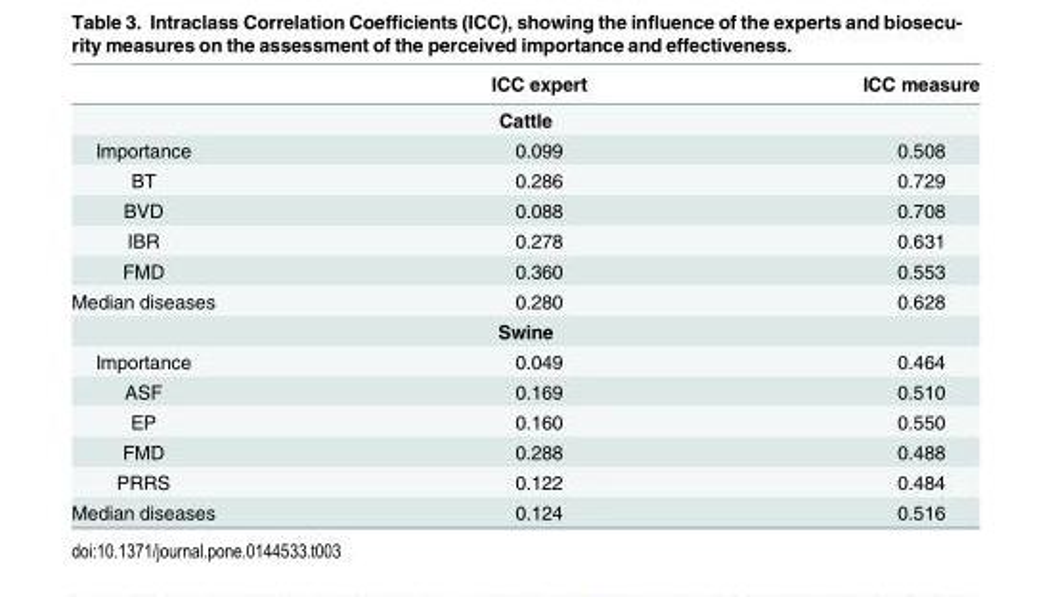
<table><thead><tr><td></td><td>ICC expert</td><td>ICC measure</td></tr></thead><tbody><tr><td colspan="3">Cattle</td></tr><tr><td>Importance</td><td>0.099</td><td>0.508</td></tr><tr><td>BT</td><td>0.286</td><td>0.729</td></tr><tr><td>BVD</td><td>0.088</td><td>0.708</td></tr><tr><td>IBR</td><td>0.278</td><td>0.631</td></tr><tr><td>FMD</td><td>0.360</td><td>0.553</td></tr><tr><td>Median diseases</td><td>0.280</td><td>0.628</td></tr><tr><td colspan="3">Swine</td></tr><tr><td>Importance</td><td>0.049</td><td>0.464</td></tr><tr><td>ASF</td><td>0.169</td><td>0.510</td></tr><tr><td>EP</td><td>0.160</td><td>0.550</td></tr><tr><td>FMD</td><td>0.288</td><td>0.488</td></tr><tr><td>PRRS</td><td>0.122</td><td>0.484</td></tr><tr><td>Median diseases</td><td>0.124</td><td>0.516</td></tr></tbody></table>